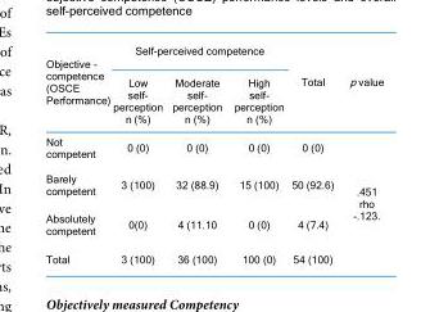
<table><thead><tr><td rowspan="2">Objective - competence (OSCE Performance)</td><td colspan="3">Self-perceived competence</td><td rowspan="2">Total</td><td rowspan="2">p value</td></tr><tr><td>Low self- perception n (%)</td><td>Moderate self- perception n (%)</td><td>High self- perception n (%)</td></tr></thead><tbody><tr><td>Not competent</td><td>0 (0)</td><td>0 (0)</td><td>0 (0)</td><td>0 (0)</td><td rowspan="4">.451 rho -.123.</td></tr><tr><td>Barely competent</td><td>3 (100)</td><td>32 (88.9)</td><td>15 (100)</td><td>50 (92.6)</td></tr><tr><td>Absolutely competent</td><td>0(0)</td><td>4 (11.10</td><td>0 (0)</td><td>4 (7.4)</td></tr><tr><td>Total</td><td>3 (100)</td><td>36 (100)</td><td>100 (0)</td><td>54 (100)</td></tr></tbody></table>